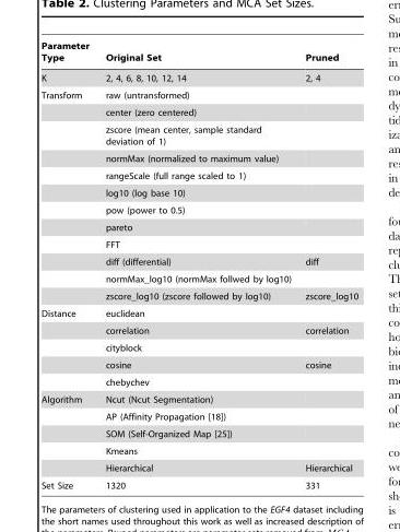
<table><thead><tr><td>Parameter Type</td><td>Original Set</td><td>Pruned</td></tr></thead><tbody><tr><td>K</td><td>2, 4, 6, 8, 10, 12, 14</td><td>2, 4</td></tr><tr><td rowspan="12">Transform</td><td>raw (untransformed)</td><td></td></tr><tr><td>center (zero centered)</td><td></td></tr><tr><td>zscore (mean center, sample standard deviation of 1)</td><td></td></tr><tr><td>normMax (normalized to maximum value)</td><td></td></tr><tr><td>rangeScale (full range scaled to 1)</td><td></td></tr><tr><td>log10 (log base 10)</td><td></td></tr><tr><td>pow (power to 0.5)</td><td></td></tr><tr><td>pareto</td><td></td></tr><tr><td>FFT</td><td></td></tr><tr><td>diff (differential)</td><td>diff</td></tr><tr><td>normMax_log10 (normMax follwed by log10)</td><td></td></tr><tr><td>zscore_log10 (zscore followed by log10)</td><td>zscore_log10</td></tr><tr><td rowspan="5">Distance</td><td>euclidean</td><td></td></tr><tr><td>correlation</td><td>correlation</td></tr><tr><td>cityblock</td><td></td></tr><tr><td>cosine</td><td>cosine</td></tr><tr><td>chebychev</td><td></td></tr><tr><td rowspan="5">Algorithm</td><td>Ncut (Ncut Segmentation)</td><td></td></tr><tr><td>AP (Affinity Propagation [18])</td><td></td></tr><tr><td>SOM (Self-Organized Map [25])</td><td></td></tr><tr><td>Kmeans</td><td></td></tr><tr><td>Hierarchical</td><td>Hierarchical</td></tr><tr><td>Set Size</td><td>1320</td><td>331</td></tr></tbody></table>